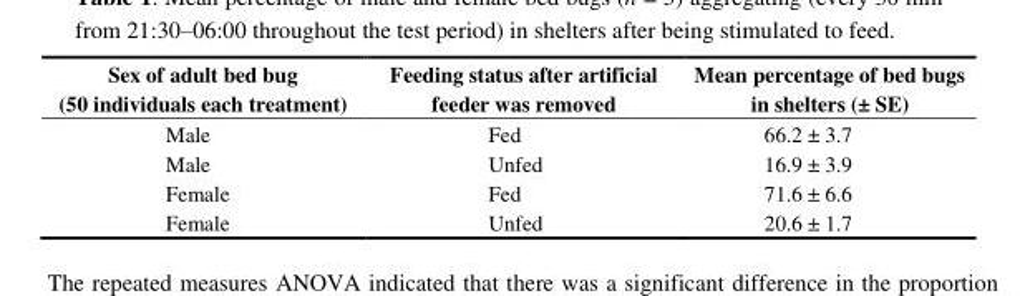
<table><thead><tr><td>Sex of adult bed bug (50 individuals each treatment)</td><td>Feeding status after artificial feeder was removed</td><td>Mean percentage of bed bugs in shelters (± SE)</td></tr></thead><tbody><tr><td>Male</td><td>Fed</td><td>66.2 ± 3.7</td></tr><tr><td>Male</td><td>Unfed</td><td>16.9 ± 3.9</td></tr><tr><td>Female</td><td>Fed</td><td>71.6 ± 6.6</td></tr><tr><td>Female</td><td>Unfed</td><td>20.6 ± 1.7</td></tr></tbody></table>